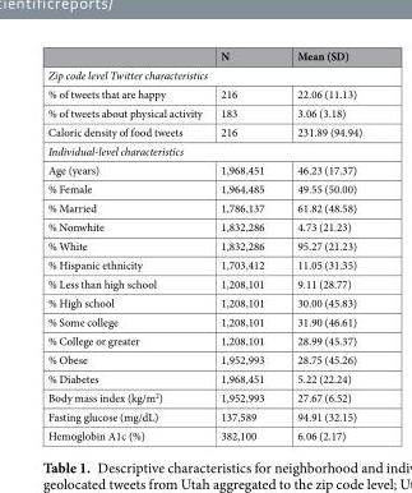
<table><thead><tr><td></td><td>N</td><td>Mean (SD)</td></tr></thead><tbody><tr><td colspan="3">Zip code level Twitter characteristics</td></tr><tr><td>% of tweets that are happy</td><td>216</td><td>22.06 (11.13)</td></tr><tr><td>% of tweets about physical activity</td><td>183</td><td>3.06 (3.18)</td></tr><tr><td>Caloric density of food tweets</td><td>216</td><td>231.89 (94.94)</td></tr><tr><td colspan="3">Individual-level characteristics</td></tr><tr><td>Age (years)</td><td>1,968,451</td><td>46.23 (17.37)</td></tr><tr><td>% Female</td><td>1,964,485</td><td>49.55 (50.00)</td></tr><tr><td>% Married</td><td>1,786,137</td><td>61.82 (48.58)</td></tr><tr><td>% Nonwhite</td><td>1,832,286</td><td>4.73 (21.23)</td></tr><tr><td>% White</td><td>1,832,286</td><td>95.27 (21.23)</td></tr><tr><td>% Hispanic ethnicity</td><td>1,703,412</td><td>11.05 (31.35)</td></tr><tr><td>% Less than high school</td><td>1,208,101</td><td>9.11 (28.77)</td></tr><tr><td>% High school</td><td>1,208,101</td><td>30.00 (45.83)</td></tr><tr><td>% Some college</td><td>1,208,101</td><td>31.90 (46.61)</td></tr><tr><td>% College or greater</td><td>1,208,101</td><td>28.99 (45.37)</td></tr><tr><td>% Obese</td><td>1,952,993</td><td>28.75 (45.26)</td></tr><tr><td>% Diabetes</td><td>1,968,451</td><td>5.22 (22.24)</td></tr><tr><td>Body mass index (kg/m<sup>2</sup>)</td><td>1,952,993</td><td>27.67 (6.52)</td></tr><tr><td>Fasting glucose (mg/dL)</td><td>137,589</td><td>94.91 (32.15)</td></tr><tr><td>Hemoglobin A1c (%)</td><td>382,100</td><td>6.06 (2.17)</td></tr></tbody></table>